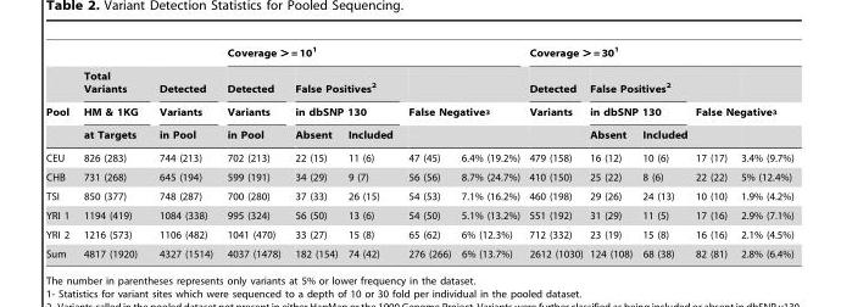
<table><thead><tr><td rowspan="4">Pool</td><td rowspan="4">Total Variants HM &amp; 1KG at Targets</td><td rowspan="4">Detected Variants in Pool</td><td colspan="5">Coverage &gt; = 10<sup>1</sup></td><td colspan="5">Coverage &gt; = 30<sup>1</sup></td></tr><tr><td rowspan="3">Detected Variants in Pool</td><td rowspan="2" colspan="2">False Positives<sup>2</sup> in dbSNP 130</td><td></td><td></td><td rowspan="3">Detected Variants</td><td rowspan="2" colspan="2">False Positives<sup>2</sup> in dbSNP 130</td><td></td><td></td></tr><tr><td colspan="2">False Negative<sup>3</sup></td><td colspan="2">False Negative<sup>3</sup></td></tr><tr><td>Absent</td><td>Included</td><td></td><td></td><td>Absent</td><td>Included</td><td></td><td></td></tr></thead><tbody><tr><td>CEU</td><td>826 (283)</td><td>744 (213)</td><td>702 (213)</td><td>22 (15)</td><td>11 (6)</td><td>47 (45)</td><td>6.4% (19.2%)</td><td>479 (158)</td><td>16 (12)</td><td>10 (6)</td><td>17 (17)</td><td>3.4% (9.7%)</td></tr><tr><td>CHB</td><td>731 (268)</td><td>645 (194)</td><td>599 (191)</td><td>34 (29)</td><td>9 (7)</td><td>56 (56)</td><td>8.7% (24.7%)</td><td>410 (150)</td><td>25 (22)</td><td>8 (6)</td><td>22 (22)</td><td>5% (12.4%)</td></tr><tr><td>TSI</td><td>850 (377)</td><td>748 (287)</td><td>700 (280)</td><td>37 (33)</td><td>26 (15)</td><td>54 (53)</td><td>7.1% (16.2%)</td><td>460 (198)</td><td>29 (26)</td><td>24 (13)</td><td>10 (10)</td><td>1.9% (4.2%)</td></tr><tr><td>YRI 1</td><td>1194 (419)</td><td>1084 (338)</td><td>995 (324)</td><td>56 (50)</td><td>13 (6)</td><td>54 (50)</td><td>5.1% (13.2%)</td><td>551 (192)</td><td>31 (29)</td><td>11 (5)</td><td>17 (16)</td><td>2.9% (7.1%)</td></tr><tr><td>YRI 2</td><td>1216 (573)</td><td>1106 (482)</td><td>1041 (470)</td><td>33 (27)</td><td>15 (8)</td><td>65 (62)</td><td>6% (12.3%)</td><td>712 (332)</td><td>23 (19)</td><td>15 (8)</td><td>16 (16)</td><td>2.1% (4.5%)</td></tr><tr><td>Sum</td><td>4817 (1920)</td><td>4327 (1514)</td><td>4037 (1478)</td><td>182 (154)</td><td>74 (42)</td><td>276 (266)</td><td>6% (13.7%)</td><td>2612 (1030)</td><td>124 (108)</td><td>68 (38)</td><td>82 (81)</td><td>2.8% (6.4%)</td></tr></tbody></table>